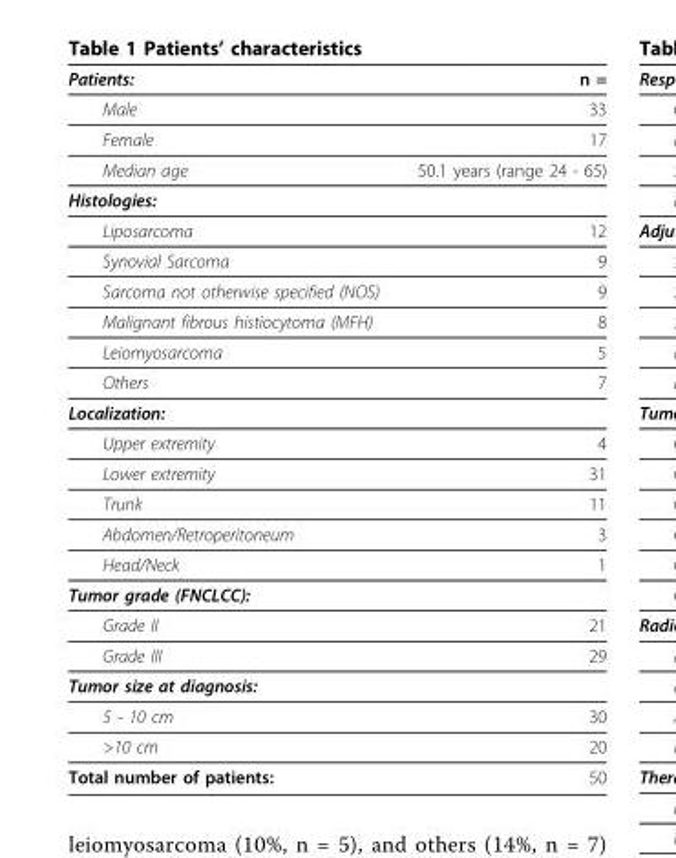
<table><thead><tr><td>Patients:</td><td>n =</td></tr></thead><tbody><tr><td>Male</td><td>33</td></tr><tr><td>Female</td><td>17</td></tr><tr><td>Median age</td><td>50.1 years (range 24 - 65)</td></tr><tr><td colspan="2">Histologies:</td></tr><tr><td>Liposarcoma</td><td>12</td></tr><tr><td>Synovial Sarcoma</td><td>9</td></tr><tr><td>Sarcoma not otherwise specified (NOS)</td><td>9</td></tr><tr><td>Malignant fibrous histiocytoma (MFH)</td><td>8</td></tr><tr><td>Leiomyosarcoma</td><td>5</td></tr><tr><td>Others</td><td>7</td></tr><tr><td colspan="2">Localization:</td></tr><tr><td>Upper extremity</td><td>4</td></tr><tr><td>Lower extremity</td><td>31</td></tr><tr><td>Trunk</td><td>11</td></tr><tr><td>Abdomen/Retroperitoneum</td><td>3</td></tr><tr><td>Head/Neck</td><td>1</td></tr><tr><td colspan="2">Tumor grade (FNCLCC):</td></tr><tr><td>Grade II</td><td>21</td></tr><tr><td>Grade III</td><td>29</td></tr><tr><td colspan="2">Tumor size at diagnosis:</td></tr><tr><td>5 - 10 cm</td><td>30</td></tr><tr><td>&gt;10 cm</td><td>20</td></tr><tr><td>Total number of patients:</td><td>50</td></tr></tbody></table>